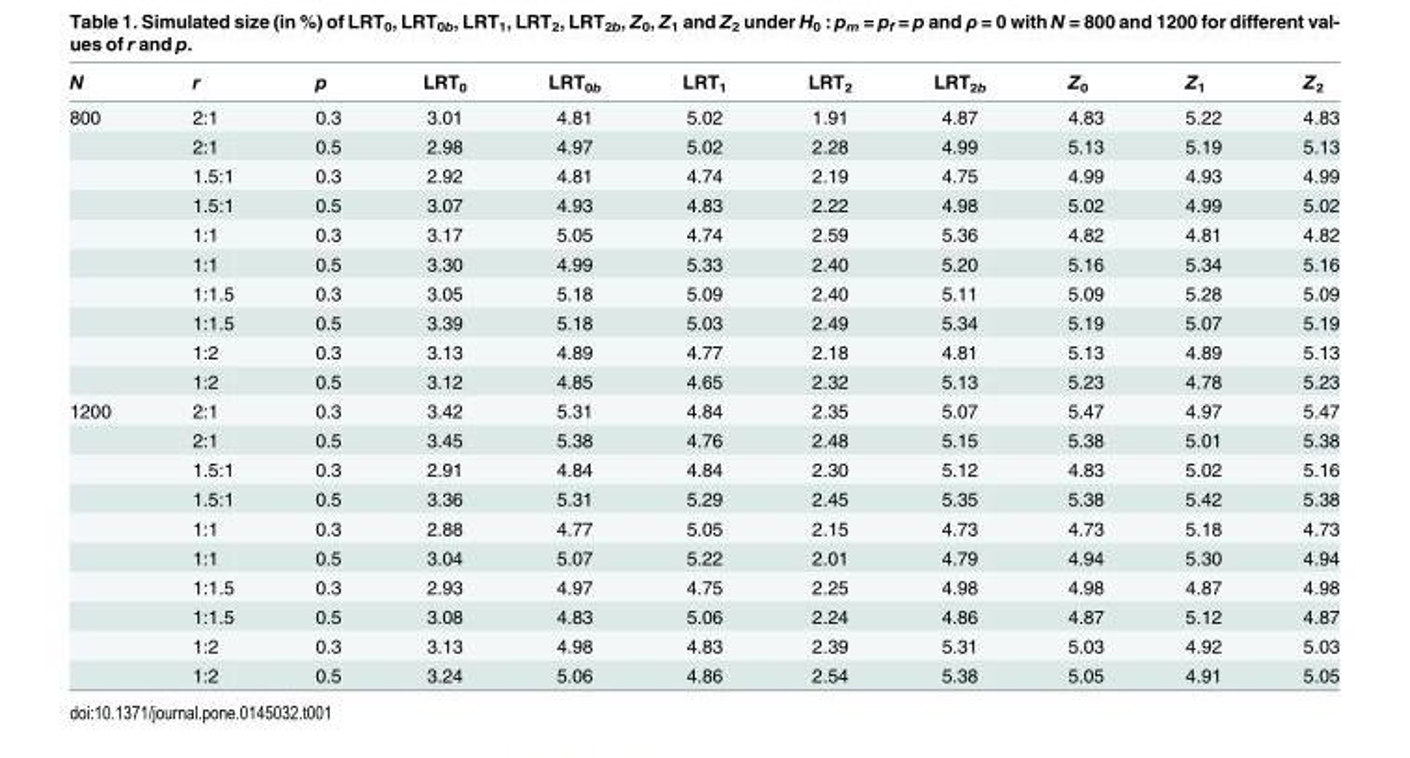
<table><thead><tr><td>N</td><td>r</td><td>p</td><td>LRT<sub>0</sub></td><td>LRT<sub>0b</sub></td><td>LRT<sub>1</sub></td><td>LRT<sub>2</sub></td><td>LRT<sub>2b</sub></td><td>Z<sub>0</sub></td><td>Z<sub>1</sub></td><td>Z<sub>2</sub></td></tr></thead><tbody><tr><td rowspan="10">800</td><td>2:1</td><td>0.3</td><td>3.01</td><td>4.81</td><td>5.02</td><td>1.91</td><td>4.87</td><td>4.83</td><td>5.22</td><td>4.83</td></tr><tr><td>2:1</td><td>0.5</td><td>2.98</td><td>4.97</td><td>5.02</td><td>2.28</td><td>4.99</td><td>5.13</td><td>5.19</td><td>5.13</td></tr><tr><td>1.5:1</td><td>0.3</td><td>2.92</td><td>4.81</td><td>4.74</td><td>2.19</td><td>4.75</td><td>4.99</td><td>4.93</td><td>4.99</td></tr><tr><td>1.5:1</td><td>0.5</td><td>3.07</td><td>4.93</td><td>4.83</td><td>2.22</td><td>4.98</td><td>5.02</td><td>4.99</td><td>5.02</td></tr><tr><td>1:1</td><td>0.3</td><td>3.17</td><td>5.05</td><td>4.74</td><td>2.59</td><td>5.36</td><td>4.82</td><td>4.81</td><td>4.82</td></tr><tr><td>1:1</td><td>0.5</td><td>3.30</td><td>4.99</td><td>5.33</td><td>2.40</td><td>5.20</td><td>5.16</td><td>5.34</td><td>5.16</td></tr><tr><td>1:1.5</td><td>0.3</td><td>3.05</td><td>5.18</td><td>5.09</td><td>2.40</td><td>5.11</td><td>5.09</td><td>5.28</td><td>5.09</td></tr><tr><td>1:1.5</td><td>0.5</td><td>3.39</td><td>5.18</td><td>5.03</td><td>2.49</td><td>5.34</td><td>5.19</td><td>5.07</td><td>5.19</td></tr><tr><td>1:2</td><td>0.3</td><td>3.13</td><td>4.89</td><td>4.77</td><td>2.18</td><td>4.81</td><td>5.13</td><td>4.89</td><td>5.13</td></tr><tr><td>1:2</td><td>0.5</td><td>3.12</td><td>4.85</td><td>4.65</td><td>2.32</td><td>5.13</td><td>5.23</td><td>4.78</td><td>5.23</td></tr><tr><td rowspan="10">1200</td><td>2:1</td><td>0.3</td><td>3.42</td><td>5.31</td><td>4.84</td><td>2.35</td><td>5.07</td><td>5.47</td><td>4.97</td><td>5.47</td></tr><tr><td>2:1</td><td>0.5</td><td>3.45</td><td>5.38</td><td>4.76</td><td>2.48</td><td>5.15</td><td>5.38</td><td>5.01</td><td>5.38</td></tr><tr><td>1.5:1</td><td>0.3</td><td>2.91</td><td>4.84</td><td>4.84</td><td>2.30</td><td>5.12</td><td>4.83</td><td>5.02</td><td>5.16</td></tr><tr><td>1.5:1</td><td>0.5</td><td>3.36</td><td>5.31</td><td>5.29</td><td>2.45</td><td>5.35</td><td>5.38</td><td>5.42</td><td>5.38</td></tr><tr><td>1:1</td><td>0.3</td><td>2.88</td><td>4.77</td><td>5.05</td><td>2.15</td><td>4.73</td><td>4.73</td><td>5.18</td><td>4.73</td></tr><tr><td>1:1</td><td>0.5</td><td>3.04</td><td>5.07</td><td>5.22</td><td>2.01</td><td>4.79</td><td>4.94</td><td>5.30</td><td>4.94</td></tr><tr><td>1:1.5</td><td>0.3</td><td>2.93</td><td>4.97</td><td>4.75</td><td>2.25</td><td>4.98</td><td>4.98</td><td>4.87</td><td>4.98</td></tr><tr><td>1:1.5</td><td>0.5</td><td>3.08</td><td>4.83</td><td>5.06</td><td>2.24</td><td>4.86</td><td>4.87</td><td>5.12</td><td>4.87</td></tr><tr><td>1:2</td><td>0.3</td><td>3.13</td><td>4.98</td><td>4.83</td><td>2.39</td><td>5.31</td><td>5.03</td><td>4.92</td><td>5.03</td></tr><tr><td>1:2</td><td>0.5</td><td>3.24</td><td>5.06</td><td>4.86</td><td>2.54</td><td>5.38</td><td>5.05</td><td>4.91</td><td>5.05</td></tr></tbody></table>